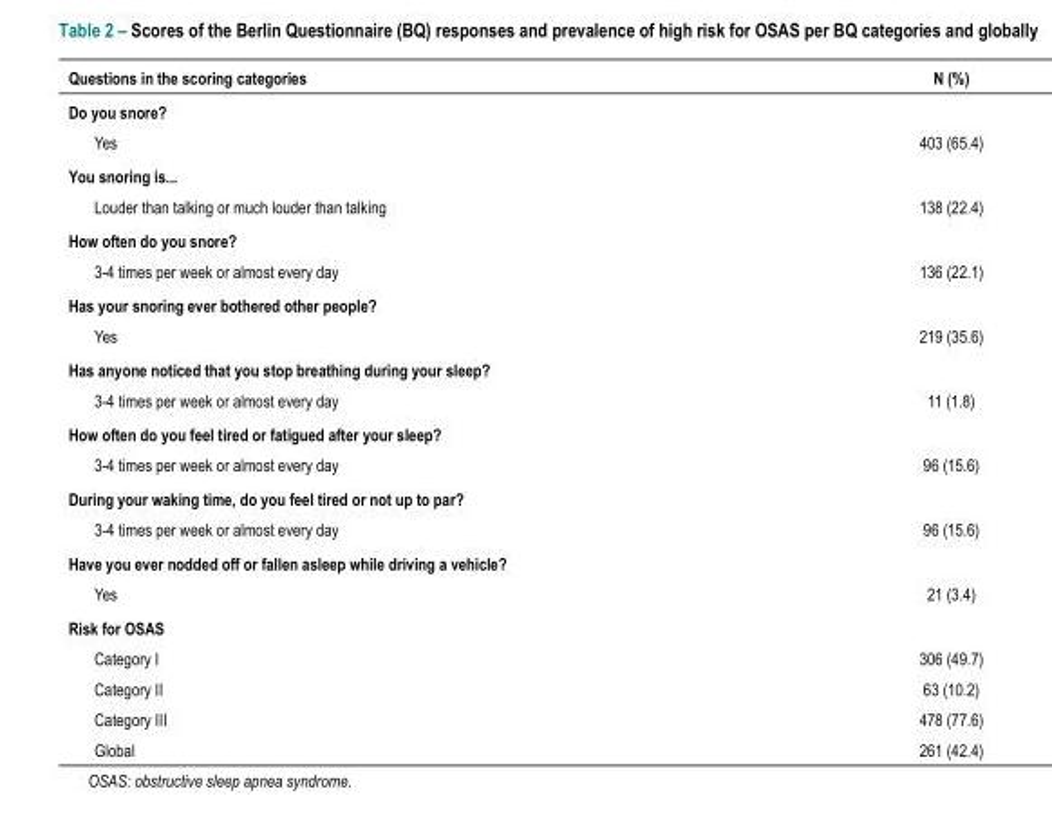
<table><thead><tr><td>Questions in the scoring categories</td><td>N (%)</td></tr></thead><tbody><tr><td colspan="2">Do you snore?</td></tr><tr><td>Yes</td><td>403 (65.4)</td></tr><tr><td colspan="2">You snoring is...</td></tr><tr><td>Louder than talking or much louder than talking</td><td>138 (22.4)</td></tr><tr><td colspan="2">How often do you snore?</td></tr><tr><td>3-4 times per week or almost every day</td><td>136 (22.1)</td></tr><tr><td colspan="2">Has your snoring ever bothered other people?</td></tr><tr><td>Yes</td><td>219 (35.6)</td></tr><tr><td colspan="2">Has anyone noticed that you stop breathing during your sleep?</td></tr><tr><td>3-4 times per week or almost every day</td><td>11 (1.8)</td></tr><tr><td colspan="2">How often do you feel tired or fatigued after your sleep?</td></tr><tr><td>3-4 times per week or almost every day</td><td>96 (15.6)</td></tr><tr><td colspan="2">During your waking time, do you feel tired or not up to par?</td></tr><tr><td>3-4 times per week or almost every day</td><td>96 (15.6)</td></tr><tr><td colspan="2">Have you ever nodded off or fallen asleep while driving a vehicle?</td></tr><tr><td>Yes</td><td>21 (3.4)</td></tr><tr><td colspan="2">Risk for OSAS</td></tr><tr><td>Category I</td><td>306 (49.7)</td></tr><tr><td>Category II</td><td>63 (10.2)</td></tr><tr><td>Category III</td><td>478 (77.6)</td></tr><tr><td>Global</td><td>261 (42.4)</td></tr></tbody></table>